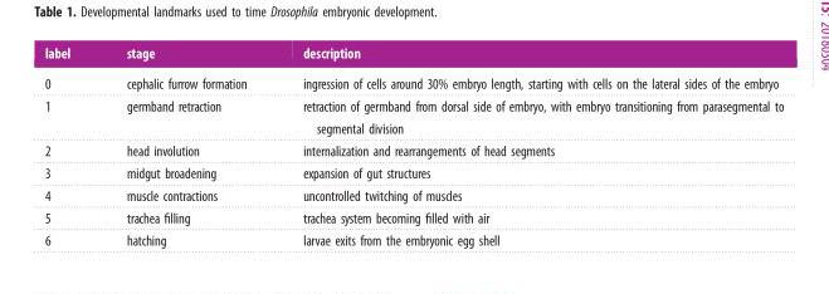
<table><thead><tr><td>label</td><td>stage</td><td>description</td></tr></thead><tbody><tr><td>0</td><td>cephalic furrow formation</td><td>ingression of cells around 30% embryo length, starting with cells on the lateral sides of the embryo</td></tr><tr><td>1</td><td>germband retraction</td><td>retraction of germband from dorsal side of embryo, with embryo transitioning from parasegmental to segmental division</td></tr><tr><td>2</td><td>head involution</td><td>internalization and rearrangements of head segments</td></tr><tr><td>3</td><td>midgut broadening</td><td>expansion of gut structures</td></tr><tr><td>4</td><td>muscle contractions</td><td>uncontrolled twitching of muscles</td></tr><tr><td>5</td><td>trachea filling</td><td>trachea system becoming filled with air</td></tr><tr><td>6</td><td>hatching</td><td>larvae exits from the embryonic egg shell</td></tr></tbody></table>